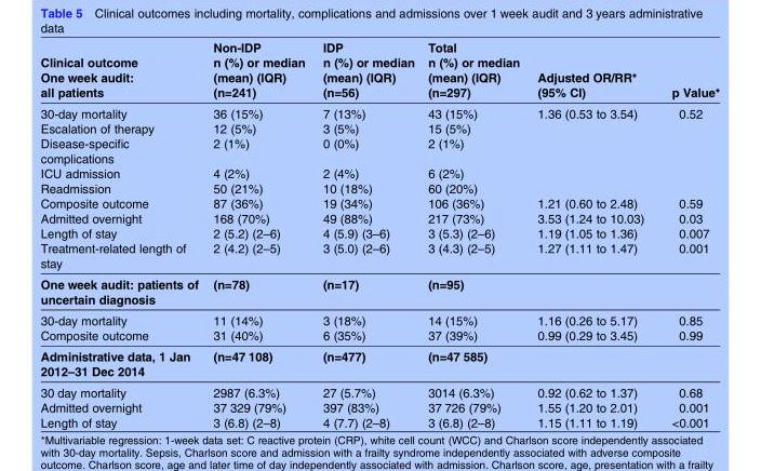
<table><thead><tr><td rowspan="2">Clinical outcome One week audit: all patients</td><td rowspan="2">Non-IDP n (%) or median (mean) (IQR) (n=241)</td><td rowspan="2">IDP n (%) or median (mean) (IQR) (n=56)</td><td rowspan="2">Total n (%) or median (mean) (IQR) (n=297)</td><td rowspan="2">Adjusted OR/RR* (95% CI)</td><td rowspan="2">p Value*</td></tr><tr></tr></thead><tbody><tr><td>30-day mortality</td><td>36 (15%)</td><td>7 (13%)</td><td>43 (15%)</td><td>1.36 (0.53 to 3.54)</td><td>0.52</td></tr><tr><td>Escalation of therapy</td><td>12 (5%)</td><td>3 (5%)</td><td>15 (5%)</td><td></td><td></td></tr><tr><td>Disease-specific complications</td><td>2 (1%)</td><td>0 (0%)</td><td>2 (1%)</td><td></td><td></td></tr><tr><td>ICU admission</td><td>4 (2%)</td><td>2 (4%)</td><td>6 (2%)</td><td></td><td></td></tr><tr><td>Readmission</td><td>50 (21%)</td><td>10 (18%)</td><td>60 (20%)</td><td></td><td></td></tr><tr><td>Composite outcome</td><td>87 (36%)</td><td>19 (34%)</td><td>106 (36%)</td><td>1.21 (0.60 to 2.48)</td><td>0.59</td></tr><tr><td>Admitted overnight</td><td>168 (70%)</td><td>49 (88%)</td><td>217 (73%)</td><td>3.53 (1.24 to 10.03)</td><td>0.03</td></tr><tr><td>Length of stay</td><td>2 (5.2) (2–6)</td><td>4 (5.9) (3–6)</td><td>3 (5.3) (2–6)</td><td>1.19 (1.05 to 1.36)</td><td>0.007</td></tr><tr><td>Treatment-related length of stay</td><td>2 (4.2) (2–5)</td><td>3 (5.0) (2–6)</td><td>3 (4.3) (2–5)</td><td>1.27 (1.11 to 1.47)</td><td>0.001</td></tr><tr><td>One week audit: patients of uncertain diagnosis</td><td>(n=78)</td><td>(n=17)</td><td>(n=95)</td><td></td><td></td></tr><tr><td>30-day mortality</td><td>11 (14%)</td><td>3 (18%)</td><td>14 (15%)</td><td>1.16 (0.26 to 5.17)</td><td>0.85</td></tr><tr><td>Composite outcome</td><td>31 (40%)</td><td>6 (35%)</td><td>37 (39%)</td><td>0.99 (0.29 to 3.45)</td><td>0.99</td></tr><tr><td>Administrative data, 1 Jan 2012–31 Dec 2014</td><td>(n=47 108)</td><td>(n=477)</td><td>(n=47 585)</td><td></td><td></td></tr><tr><td>30 day mortality</td><td>2987 (6.3%)</td><td>27 (5.7%)</td><td>3014 (6.3%)</td><td>0.92 (0.62 to 1.37)</td><td>0.68</td></tr><tr><td>Admitted overnight</td><td>37 329 (79%)</td><td>397 (83%)</td><td>37 726 (79%)</td><td>1.55 (1.20 to 2.01)</td><td>0.001</td></tr><tr><td>Length of stay</td><td>3 (6.8) (2–8)</td><td>4 (7.7) (2–8)</td><td>3 (6.8) (2–8)</td><td>1.15 (1.11 to 1.19)</td><td>&lt;0.001</td></tr></tbody></table>